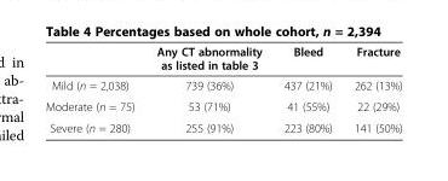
<table><thead><tr><td></td><td>Any CT abnormality as listed in table 3</td><td>Bleed</td><td>Fracture</td></tr></thead><tbody><tr><td>Mild (n = 2,038)</td><td>739 (36%)</td><td>437 (21%)</td><td>262 (13%)</td></tr><tr><td>Moderate (n = 75)</td><td>53 (71%)</td><td>41 (55%)</td><td>22 (29%)</td></tr><tr><td>Severe (n = 280)</td><td>255 (91%)</td><td>223 (80%)</td><td>141 (50%)</td></tr></tbody></table>